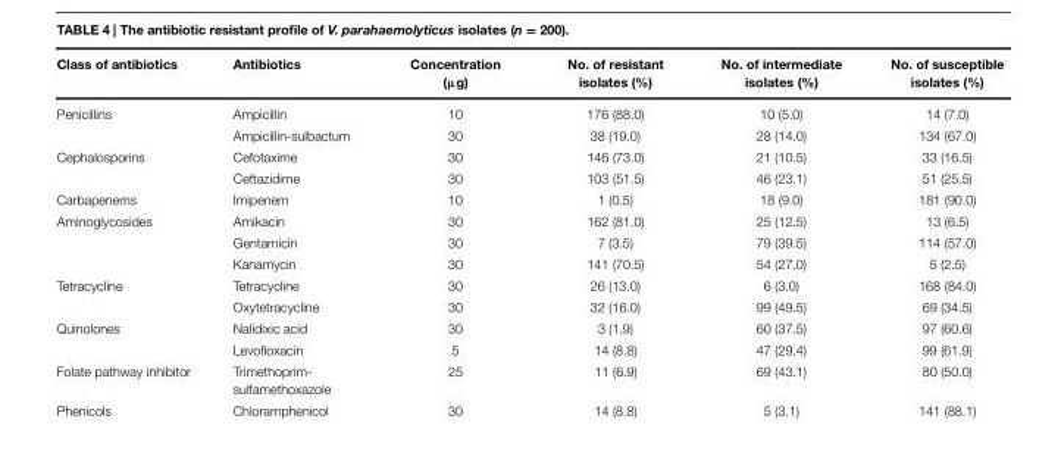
<table><thead><tr><td>Class of antibiotics</td><td>Antibiotics</td><td>Concentration (µg)</td><td>No. of resistant isolates (%)</td><td>No. of intermediate isolates (%)</td><td>No. of susceptible isolates (%)</td></tr></thead><tbody><tr><td rowspan="2">Penicillins</td><td>Ampicillin</td><td>10</td><td>176 (88.0)</td><td>10 (5.0)</td><td>14 (7.0)</td></tr><tr><td>Ampicillin-sulbactum</td><td>30</td><td>38 (19.0)</td><td>28 (14.0)</td><td>134 (67.0)</td></tr><tr><td rowspan="2">Cephalosporins</td><td>Cefotaxime</td><td>30</td><td>146 (73.0)</td><td>21 (10.5)</td><td>33 (16.5)</td></tr><tr><td>Ceftazidime</td><td>30</td><td>103 (51.5)</td><td>46 (23.1)</td><td>51 (25.5)</td></tr><tr><td>Carbapenems</td><td>Imipenem</td><td>10</td><td>1 (0.5)</td><td>18 (9.0)</td><td>181 (90.0)</td></tr><tr><td rowspan="3">Aminoglycosides</td><td>Amikacin</td><td>30</td><td>162 (81.0)</td><td>25 (12.5)</td><td>13 (6.5)</td></tr><tr><td>Gentamicin</td><td>30</td><td>7 (3.5)</td><td>79 (39.5)</td><td>114 (57.0)</td></tr><tr><td>Kanamycin</td><td>30</td><td>141 (70.5)</td><td>54 (27.0)</td><td>5 (2.5)</td></tr><tr><td rowspan="2">Tetracycline</td><td>Tetracycline</td><td>30</td><td>26 (13.0)</td><td>6 (3.0)</td><td>168 (84.0)</td></tr><tr><td>Oxytetracycline</td><td>30</td><td>32 (16.0)</td><td>99 (49.5)</td><td>69 (34.5)</td></tr><tr><td rowspan="2">Quinolones</td><td>Nalidixic acid</td><td>30</td><td>3 (1.9)</td><td>60 (37.5)</td><td>97 (60.6)</td></tr><tr><td>Levofloxacin</td><td>5</td><td>14 (8.8)</td><td>47 (29.4)</td><td>99 (61.9)</td></tr><tr><td>Folate pathway inhibitor</td><td>Trimethoprim- sulfamethoxazole</td><td>25</td><td>11 (6.9)</td><td>69 (43.1)</td><td>80 (50.0)</td></tr><tr><td>Phenicols</td><td>Chloramphenicol</td><td>30</td><td>14 (8.8)</td><td>5 (3.1)</td><td>141 (88.1)</td></tr></tbody></table>